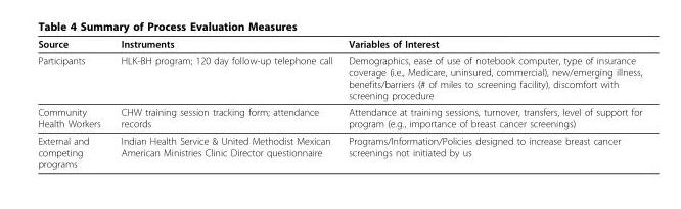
<table><thead><tr><td>Source</td><td>Instruments</td><td>Variables of Interest</td></tr></thead><tbody><tr><td>Participants</td><td>HLK-BH program; 120 day follow-up telephone call</td><td>Demographics, ease of use of notebook computer, type of insurance coverage (i.e., Medicare, uninsured, commercial), new/emerging illness, benefits/barriers (# of miles to screening facility), discomfort with screening procedure</td></tr><tr><td>Community Health Workers</td><td>CHW training session tracking form; attendance records</td><td>Attendance at training sessions, turnover, transfers, level of support for program (e.g., importance of breast cancer screenings)</td></tr><tr><td>External and competing programs</td><td>Indian Health Service &amp; United Methodist Mexican American Ministries Clinic Director questionnaire</td><td>Programs/Information/Policies designed to increase breast cancer screenings not initiated by us</td></tr></tbody></table>